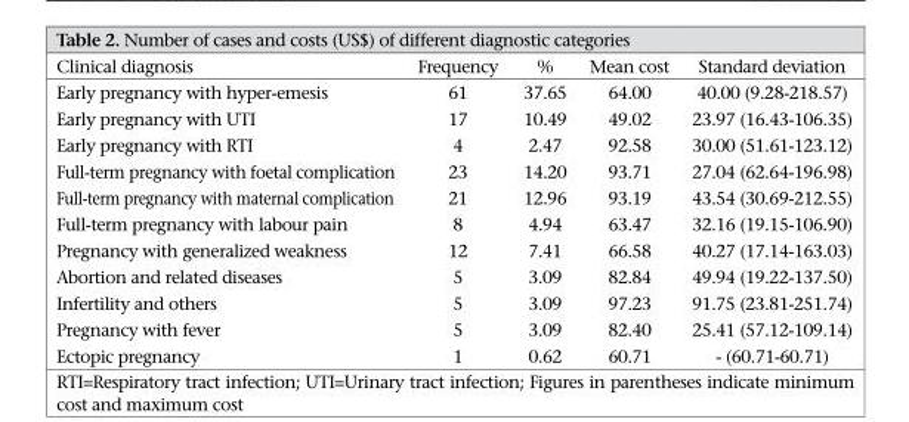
<table><thead><tr><td>Clinical diagnosis</td><td>Frequency</td><td>%</td><td>Mean cost</td><td>Standard deviation</td></tr></thead><tbody><tr><td>Early pregnancy with hyper-emesis</td><td>61</td><td>37.65</td><td>64.00</td><td>40.00 (9.28-218.57)</td></tr><tr><td>Early pregnancy with UTI</td><td>17</td><td>10.49</td><td>49.02</td><td>23.97 (16.43-106.35)</td></tr><tr><td>Early pregnancy with RTI</td><td>4</td><td>2.47</td><td>92.58</td><td>30.00 (51.61-123.12)</td></tr><tr><td>Full-term pregnancy with foetal complication</td><td>23</td><td>14.20</td><td>93.71</td><td>27.04 (62.64-196.98)</td></tr><tr><td>Full-term pregnancy with maternal complication</td><td>21</td><td>12.96</td><td>93.19</td><td>43.54 (30.69-212.55)</td></tr><tr><td>Full-term pregnancy with labour pain</td><td>8</td><td>4.94</td><td>63.47</td><td>32.16 (19.15-106.90)</td></tr><tr><td>Pregnancy with generalized weakness</td><td>12</td><td>7.41</td><td>66.58</td><td>40.27 (17.14-163.03)</td></tr><tr><td>Abortion and related diseases</td><td>5</td><td>3.09</td><td>82.84</td><td>49.94 (19.22-137.50)</td></tr><tr><td>Infertility and others</td><td>5</td><td>3.09</td><td>97.23</td><td>91.75 (23.81-251.74)</td></tr><tr><td>Pregnancy with fever</td><td>5</td><td>3.09</td><td>82.40</td><td>25.41 (57.12-109.14)</td></tr><tr><td>Ectopic pregnancy</td><td>1</td><td>0.62</td><td>60.71</td><td>- (60.71-60.71)</td></tr></tbody></table>